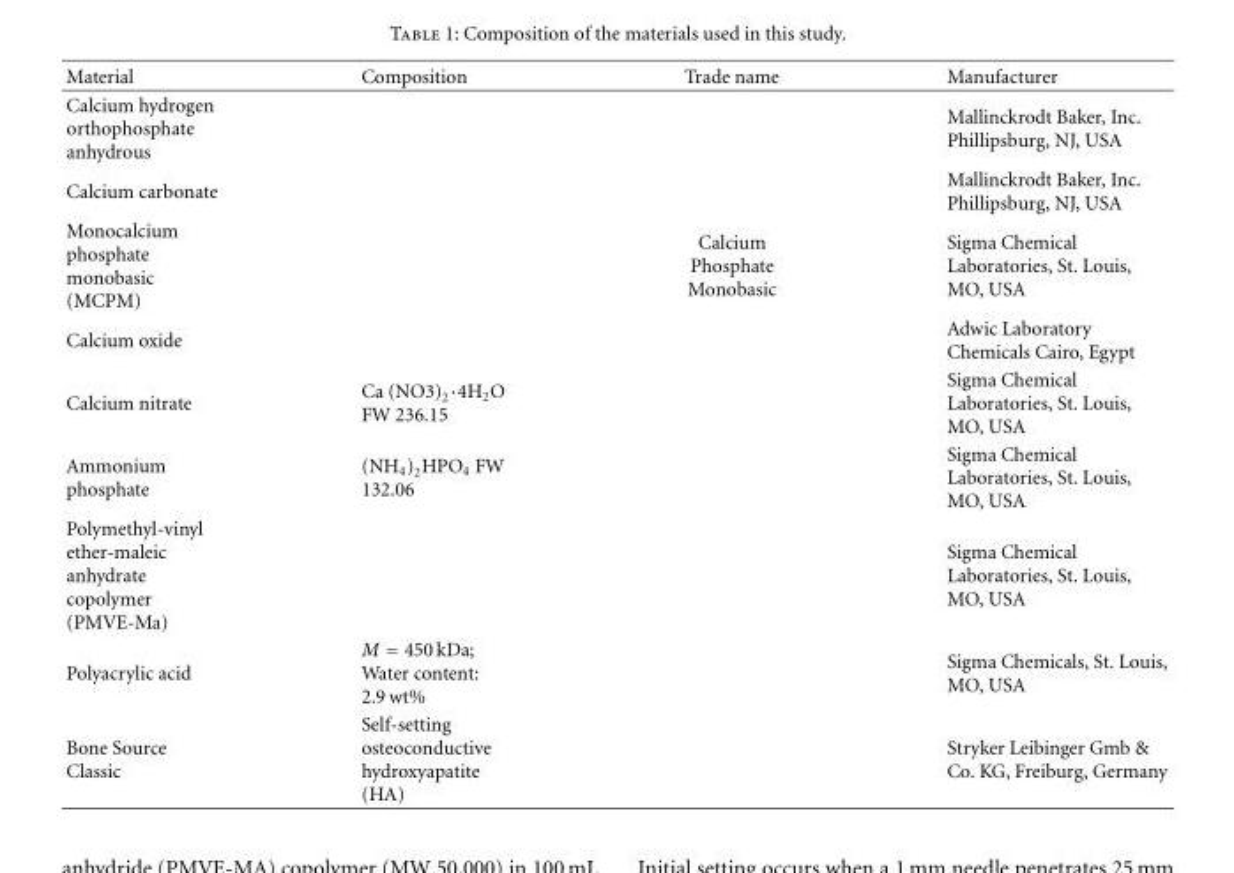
<table><thead><tr><td>Material</td><td>Composition</td><td>Trade name</td><td>Manufacturer</td></tr></thead><tbody><tr><td>Calcium hydrogen orthophosphate anhydrous</td><td></td><td></td><td>Mallinckrodt Baker, Inc. Phillipsburg, NJ, USA</td></tr><tr><td>Calcium carbonate</td><td></td><td></td><td>Mallinckrodt Baker, Inc. Phillipsburg, NJ, USA</td></tr><tr><td>Monocalcium phosphate monobasic (MCPM)</td><td></td><td>Calcium Phosphate Monobasic</td><td>Sigma Chemical Laboratories, St. Louis, MO, USA</td></tr><tr><td>Calcium oxide</td><td></td><td></td><td>Adwic Laboratory Chemicals Cairo, Egypt</td></tr><tr><td>Calcium nitrate</td><td>Ca (NO3)<sub>2</sub>·4H<sub>2</sub>O FW 236.15</td><td></td><td>Sigma Chemical Laboratories, St. Louis, MO, USA</td></tr><tr><td>Ammonium phosphate</td><td>(NH<sub>4</sub>)<sub>2</sub>HPO<sub>4</sub> FW 132.06</td><td></td><td>Sigma Chemical Laboratories, St. Louis, MO, USA</td></tr><tr><td>Polymethyl-vinyl ether-maleic anhydrate copolymer (PMVE-Ma)</td><td></td><td></td><td>Sigma Chemical Laboratories, St. Louis, MO, USA</td></tr><tr><td>Polyacrylic acid</td><td>M = 450 kDa; Water content: 2.9 wt%</td><td></td><td>Sigma Chemicals, St. Louis, MO, USA</td></tr><tr><td>Bone Source Classic</td><td>Self-setting osteoconductive hydroxyapatite (HA)</td><td></td><td>Stryker Leibinger Gmb &amp; Co. KG, Freiburg, Germany</td></tr></tbody></table>